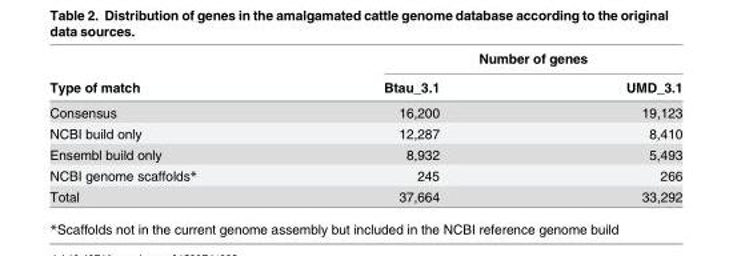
<table><thead><tr><td rowspan="2">Type of match</td><td colspan="2">Number of genes</td></tr><tr><td>Btau_3.1</td><td>UMD_3.1</td></tr></thead><tbody><tr><td>Consensus</td><td>16,200</td><td>19,123</td></tr><tr><td>NCBI build only</td><td>12,287</td><td>8,410</td></tr><tr><td>Ensembl build only</td><td>8,932</td><td>5,493</td></tr><tr><td>NCBI genome scaffolds*</td><td>245</td><td>266</td></tr><tr><td>Total</td><td>37,664</td><td>33,292</td></tr></tbody></table>